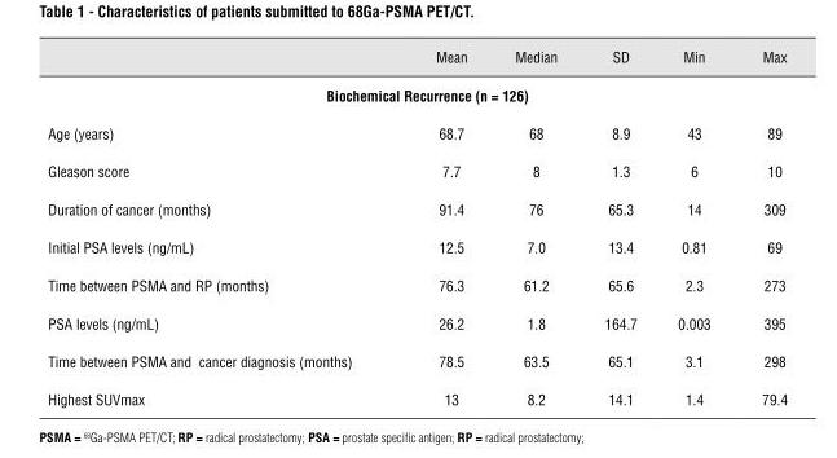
<table><thead><tr><td></td><td>Mean</td><td>Median</td><td>SD</td><td>Min</td><td>Max</td></tr></thead><tbody><tr><td colspan="6">Biochemical Recurrence (n = 126)</td></tr><tr><td>Age (years)</td><td>68.7</td><td>68</td><td>8.9</td><td>43</td><td>89</td></tr><tr><td>Gleason score</td><td>7.7</td><td>8</td><td>1.3</td><td>6</td><td>10</td></tr><tr><td>Duration of cancer (months)</td><td>91.4</td><td>76</td><td>65.3</td><td>14</td><td>309</td></tr><tr><td>Initial PSA levels (ng/mL)</td><td>12.5</td><td>7.0</td><td>13.4</td><td>0.81</td><td>69</td></tr><tr><td>Time between PSMA and RP (months)</td><td>76.3</td><td>61.2</td><td>65.6</td><td>2.3</td><td>273</td></tr><tr><td>PSA levels (ng/mL)</td><td>26.2</td><td>1.8</td><td>164.7</td><td>0.003</td><td>395</td></tr><tr><td>Time between PSMA and cancer diagnosis (months)</td><td>78.5</td><td>63.5</td><td>65.1</td><td>3.1</td><td>298</td></tr><tr><td>Highest SUVmax</td><td>13</td><td>8.2</td><td>14.1</td><td>1.4</td><td>79.4</td></tr></tbody></table>